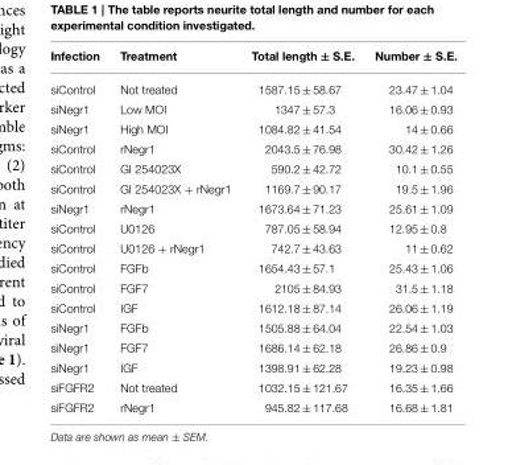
<table><thead><tr><td>Infection</td><td>Treatment</td><td>Total length ± S.E.</td><td>Number ± S.E.</td></tr></thead><tbody><tr><td>siControl</td><td>Not treated</td><td>1587.15 ± 58.67</td><td>23.47 ± 1.04</td></tr><tr><td>siNegr1</td><td>Low MOI</td><td>1347 ± 57.3</td><td>16.06 ± 0.93</td></tr><tr><td>siNegr1</td><td>High MOI</td><td>1084.82 ± 41.54</td><td>14 ± 0.66</td></tr><tr><td>siControl</td><td>rNegr1</td><td>2043.5 ± 76.98</td><td>30.42 ± 1.26</td></tr><tr><td>siControl</td><td>GI 254023X</td><td>590.2 ± 42.72</td><td>10.1 ± 0.55</td></tr><tr><td>siControl</td><td>GI 254023X + rNegr1</td><td>1169.7 ± 90.17</td><td>19.5 ± 1.96</td></tr><tr><td>siNegr1</td><td>rNegr1</td><td>1673.64 ± 71.23</td><td>25.61 ± 1.09</td></tr><tr><td>siControl</td><td>U0126</td><td>787.05 ± 58.94</td><td>12.95 ± 0.8</td></tr><tr><td>siControl</td><td>U0126 + rNegr1</td><td>742.7 ± 43.63</td><td>11 ± 0.62</td></tr><tr><td>siControl</td><td>FGFb</td><td>1654.43 ± 57.1</td><td>25.43 ± 1.06</td></tr><tr><td>siControl</td><td>FGF7</td><td>2105 ± 84.93</td><td>31.5 ± 1.18</td></tr><tr><td>siControl</td><td>IGF</td><td>1612.18 ± 87.14</td><td>26.06 ± 1.19</td></tr><tr><td>siNegr1</td><td>FGFb</td><td>1505.88 ± 64.04</td><td>22.54 ± 1.03</td></tr><tr><td>siNegr1</td><td>FGF7</td><td>1686.14 ± 62.18</td><td>26.86 ± 0.9</td></tr><tr><td>siNegr1</td><td>IGF</td><td>1398.91 ± 62.28</td><td>19.23 ± 0.98</td></tr><tr><td>siFGFR2</td><td>Not treated</td><td>1032.15 ± 121.67</td><td>16.35 ± 1.66</td></tr><tr><td>siFGFR2</td><td>rNegr1</td><td>945.82 ± 117.68</td><td>16.68 ± 1.81</td></tr></tbody></table>